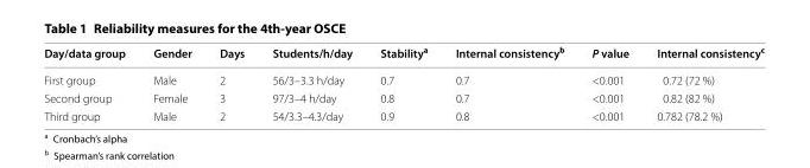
<table><thead><tr><td>Day/data group</td><td>Gender</td><td>Days</td><td>Students/h/day</td><td>Stability<sup>a</sup></td><td>Internal consistency<sup>b</sup></td><td>P value</td><td>Internal consistency<sup>c</sup></td></tr></thead><tbody><tr><td>First group</td><td>Male</td><td>2</td><td>56/3–3.3 h/day</td><td>0.7</td><td>0.7</td><td>&lt;0.001</td><td>0.72 (72 %)</td></tr><tr><td>Second group</td><td>Female</td><td>3</td><td>97/3–4 h/day</td><td>0.8</td><td>0.7</td><td>&lt;0.001</td><td>0.82 (82 %)</td></tr><tr><td>Third group</td><td>Male</td><td>2</td><td>54/3.3–4.3/day</td><td>0.9</td><td>0.8</td><td>&lt;0.001</td><td>0.782 (78.2 %)</td></tr></tbody></table>